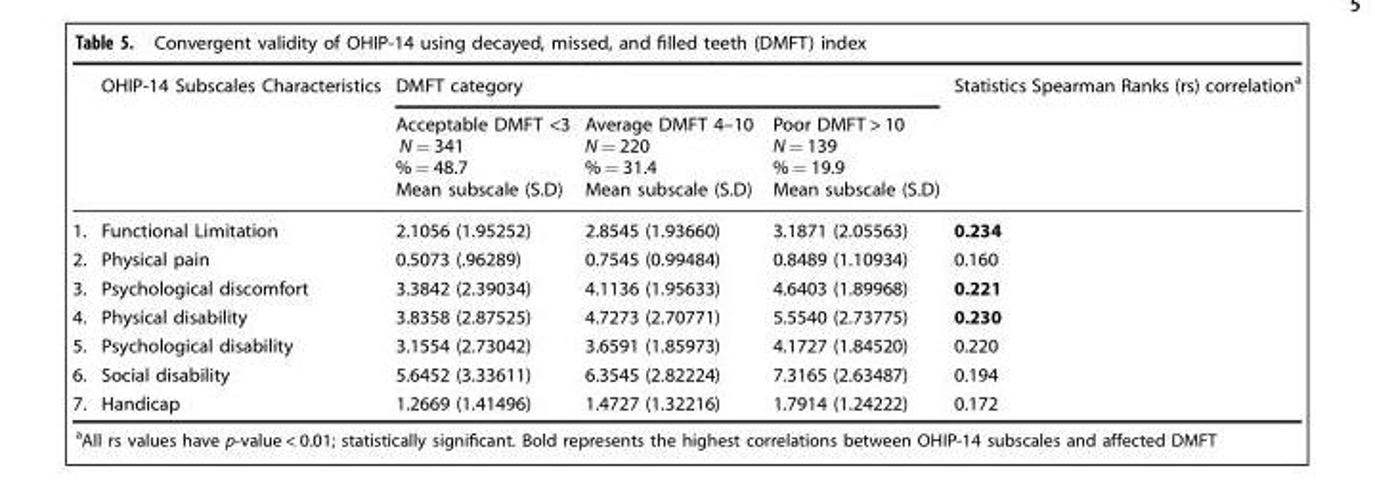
<table><thead><tr><td rowspan="2"></td><td rowspan="2">OHIP-14 Subscales Characteristics</td><td colspan="3">DMFT category</td><td rowspan="2">Statistics Spearman Ranks (rs) correlation<sup>a</sup></td></tr><tr><td>Acceptable DMFT &lt;3 N = 341 % = 48.7 Mean subscale (S.D)</td><td>Average DMFT 4–10 N = 220 % = 31.4 Mean subscale (S.D)</td><td>Poor DMFT &gt; 10 N = 139 % = 19.9 Mean subscale (S.D)</td></tr></thead><tbody><tr><td>1.</td><td>Functional Limitation</td><td>2.1056 (1.95252)</td><td>2.8545 (1.93660)</td><td>3.1871 (2.05563)</td><td>0.234</td></tr><tr><td>2.</td><td>Physical pain</td><td>0.5073 (.96289)</td><td>0.7545 (0.99484)</td><td>0.8489 (1.10934)</td><td>0.160</td></tr><tr><td>3.</td><td>Psychological discomfort</td><td>3.3842 (2.39034)</td><td>4.1136 (1.95633)</td><td>4.6403 (1.89968)</td><td>0.221</td></tr><tr><td>4.</td><td>Physical disability</td><td>3.8358 (2.87525)</td><td>4.7273 (2.70771)</td><td>5.5540 (2.73775)</td><td>0.230</td></tr><tr><td>5.</td><td>Psychological disability</td><td>3.1554 (2.73042)</td><td>3.6591 (1.85973)</td><td>4.1727 (1.84520)</td><td>0.220</td></tr><tr><td>6.</td><td>Social disability</td><td>5.6452 (3.33611)</td><td>6.3545 (2.82224)</td><td>7.3165 (2.63487)</td><td>0.194</td></tr><tr><td>7.</td><td>Handicap</td><td>1.2669 (1.41496)</td><td>1.4727 (1.32216)</td><td>1.7914 (1.24222)</td><td>0.172</td></tr></tbody></table>